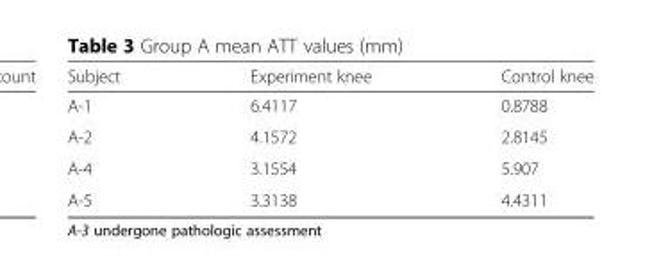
<table><thead><tr><td>Subject</td><td>Experiment knee</td><td>Control knee</td></tr></thead><tbody><tr><td>A-1</td><td>6.4117</td><td>0.8788</td></tr><tr><td>A-2</td><td>4.1572</td><td>2.8145</td></tr><tr><td>A-4</td><td>3.1554</td><td>5.907</td></tr><tr><td>A-5</td><td>3.3138</td><td>4.4311</td></tr></tbody></table>